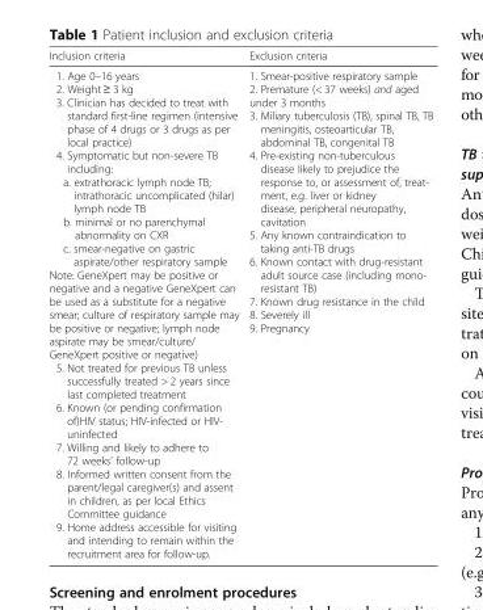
<table><thead><tr><td>Inclusion criteria</td><td>Exclusion criteria</td></tr></thead><tbody><tr><td>1. Age 0–16 years 2. Weight ≥ 3 kg 3. Clinician has decided to treat with standard first-line regimen (intensive phase of 4 drugs or 3 drugs as per local practice) 4. Symptomatic but non-severe TB including: a. extrathoracic lymph node TB; intrathoracic uncomplicated (hilar) lymph node TB b. minimal or no parenchymal abnormality on CXR c. smear-negative on gastric aspirate/other respiratory sample Note: GeneXpert may be positive or negative and a negative GeneXpert can be used as a substitute for a negative smear; culture of respiratory sample may be positive or negative; lymph node aspirate may be smear/culture/ GeneXpert positive or negative) 5. Not treated for previous TB unless successfully treated &gt; 2 years since last completed treatment 6. Known (or pending confirmation of)HIV status; HIV-infected or HIV- uninfected 7. Willing and likely to adhere to 72 weeks’ follow-up 8. Informed written consent from the parent/legal caregiver(s) and assent in children, as per local Ethics Committee guidance 9. Home address accessible for visiting and intending to remain within the recruitment area for follow-up.</td><td>1. Smear-positive respiratory sample 2. Premature (&lt; 37 weeks) and aged under 3 months 3. Miliary tuberculosis (TB), spinal TB, TB meningitis, osteoarticular TB, abdominal TB, congenital TB 4. Pre-existing non-tuberculous disease likely to prejudice the response to, or assessment of, treat- ment, e.g. liver or kidney disease, peripheral neuropathy, cavitation 5. Any known contraindication to taking anti-TB drugs 6. Known contact with drug-resistant adult source case (including mono- resistant TB) 7. Known drug resistance in the child 8. Severely ill 9. Pregnancy</td></tr></tbody></table>